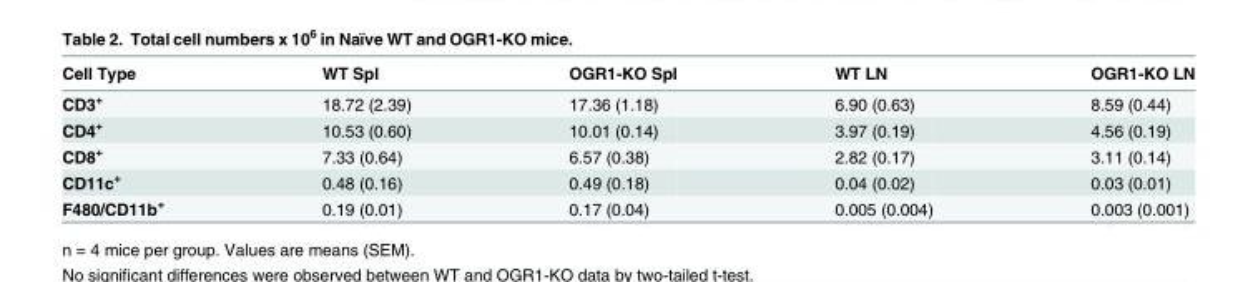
<table><thead><tr><td>Cell Type</td><td>WT Spl</td><td>OGR1-KO Spl</td><td>WT LN</td><td>OGR1-KO LN</td></tr></thead><tbody><tr><td>CD3<sup>+</sup></td><td>18.72 (2.39)</td><td>17.36 (1.18)</td><td>6.90 (0.63)</td><td>8.59 (0.44)</td></tr><tr><td>CD4<sup>+</sup></td><td>10.53 (0.60)</td><td>10.01 (0.14)</td><td>3.97 (0.19)</td><td>4.56 (0.19)</td></tr><tr><td>CD8<sup>+</sup></td><td>7.33 (0.64)</td><td>6.57 (0.38)</td><td>2.82 (0.17)</td><td>3.11 (0.14)</td></tr><tr><td>CD11c<sup>+</sup></td><td>0.48 (0.16)</td><td>0.49 (0.18)</td><td>0.04 (0.02)</td><td>0.03 (0.01)</td></tr><tr><td>F480/CD11b<sup>+</sup></td><td>0.19 (0.01)</td><td>0.17 (0.04)</td><td>0.005 (0.004)</td><td>0.003 (0.001)</td></tr></tbody></table>